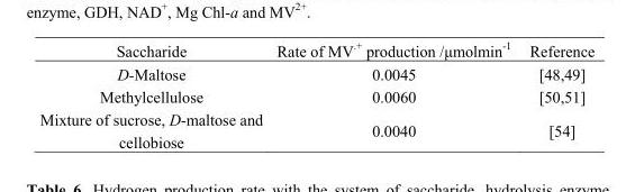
<table><thead><tr><td>Saccharide</td><td>Rate of MV<sup>.+</sup> production /μmolmin<sup>-1</sup></td><td>Reference</td></tr></thead><tbody><tr><td>D-Maltose</td><td>0.0045</td><td>[48,49]</td></tr><tr><td>Methylcellulose</td><td>0.0060</td><td>[50,51]</td></tr><tr><td>Mixture of sucrose, D-maltose and cellobiose</td><td>0.0040</td><td>[54]</td></tr></tbody></table>